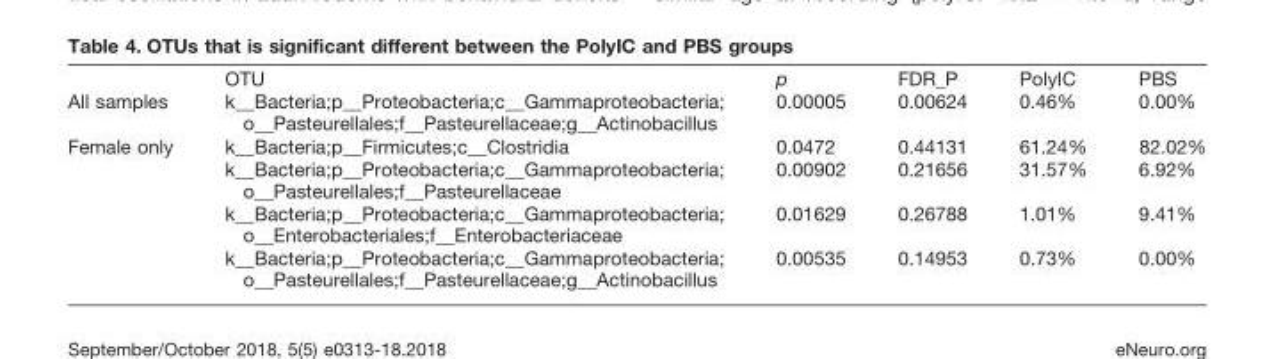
<table><thead><tr><td></td><td>OTU</td><td>p</td><td>FDR_P</td><td>PolyIC</td><td>PBS</td></tr></thead><tbody><tr><td>All samples</td><td>k__Bacteria;p__Proteobacteria;c__Gammaproteobacteria; o__Pasteurellales;f__Pasteurellaceae;g__Actinobacillus</td><td>0.00005</td><td>0.00624</td><td>0.46%</td><td>0.00%</td></tr><tr><td rowspan="4">Female only</td><td>k__Bacteria;p__Firmicutes;c__Clostridia</td><td>0.0472</td><td>0.44131</td><td>61.24%</td><td>82.02%</td></tr><tr><td>k__Bacteria;p__Proteobacteria;c__Gammaproteobacteria; o__Pasteurellales;f__Pasteurellaceae</td><td>0.00902</td><td>0.21656</td><td>31.57%</td><td>6.92%</td></tr><tr><td>k__Bacteria;p__Proteobacteria;c__Gammaproteobacteria; o__Enterobacteriales;f__Enterobacteriaceae</td><td>0.01629</td><td>0.26788</td><td>1.01%</td><td>9.41%</td></tr><tr><td>k__Bacteria;p__Proteobacteria;c__Gammaproteobacteria; o__Pasteurellales;f__Pasteurellaceae;g__Actinobacillus</td><td>0.00535</td><td>0.14953</td><td>0.73%</td><td>0.00%</td></tr></tbody></table>